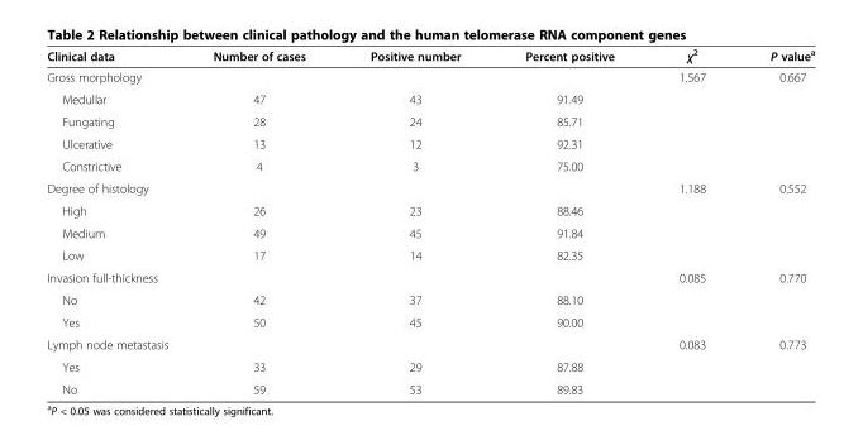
<table><thead><tr><td>Clinical data</td><td>Number of cases</td><td>Positive number</td><td>Percent positive</td><td>χ<sup>2</sup></td><td>P value<sup>a</sup></td></tr></thead><tbody><tr><td>Gross morphology</td><td></td><td></td><td></td><td>1.567</td><td>0.667</td></tr><tr><td>Medullar</td><td>47</td><td>43</td><td>91.49</td><td></td><td></td></tr><tr><td>Fungating</td><td>28</td><td>24</td><td>85.71</td><td></td><td></td></tr><tr><td>Ulcerative</td><td>13</td><td>12</td><td>92.31</td><td></td><td></td></tr><tr><td>Constrictive</td><td>4</td><td>3</td><td>75.00</td><td></td><td></td></tr><tr><td>Degree of histology</td><td></td><td></td><td></td><td>1.188</td><td>0.552</td></tr><tr><td>High</td><td>26</td><td>23</td><td>88.46</td><td></td><td></td></tr><tr><td>Medium</td><td>49</td><td>45</td><td>91.84</td><td></td><td></td></tr><tr><td>Low</td><td>17</td><td>14</td><td>82.35</td><td></td><td></td></tr><tr><td colspan="2">Invasion full-thickness</td><td></td><td></td><td>0.085</td><td>0.770</td></tr><tr><td>No</td><td>42</td><td>37</td><td>88.10</td><td></td><td></td></tr><tr><td>Yes</td><td>50</td><td>45</td><td>90.00</td><td></td><td></td></tr><tr><td colspan="2">Lymph node metastasis</td><td></td><td></td><td>0.083</td><td>0.773</td></tr><tr><td>Yes</td><td>33</td><td>29</td><td>87.88</td><td></td><td></td></tr><tr><td>No</td><td>59</td><td>53</td><td>89.83</td><td></td><td></td></tr></tbody></table>